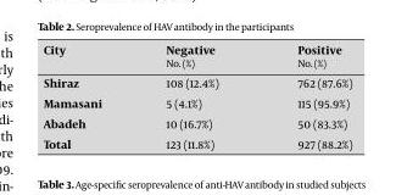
<table><thead><tr><td>City</td><td>Negative No. (%)</td><td>Positive No. (%)</td></tr></thead><tbody><tr><td>Shiraz</td><td>108 (12.4%)</td><td>762 (87.6%)</td></tr><tr><td>Mamasani</td><td>5 (4.1%)</td><td>115 (95.9%)</td></tr><tr><td>Abadeh</td><td>10 (16.7%)</td><td>50 (83.3%)</td></tr><tr><td>Total</td><td>123 (11.8%)</td><td>927 (88.2%)</td></tr></tbody></table>